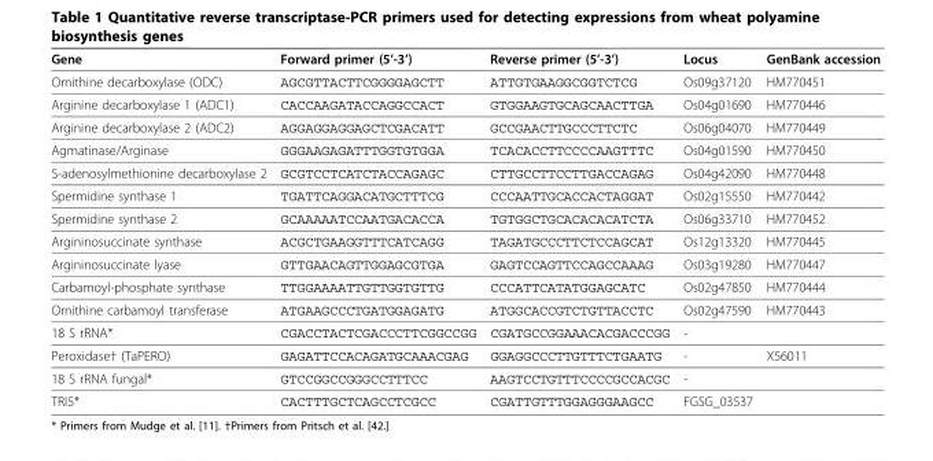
<table><thead><tr><td>Gene</td><td>Forward primer (5’-3’)</td><td>Reverse primer (5’-3’)</td><td>Locus</td><td>GenBank accession</td></tr></thead><tbody><tr><td>Ornithine decarboxylase (ODC)</td><td>AGCGTTACTTCGGGGAGCTT</td><td>ATTGTGAAGGCGGTCTCG</td><td>Os09g37120</td><td>HM770451</td></tr><tr><td>Arginine decarboxylase 1 (ADC1)</td><td>CACCAAGATACCAGGCCACT</td><td>GTGGAAGTGCAGCAACTTGA</td><td>Os04g01690</td><td>HM770446</td></tr><tr><td>Arginine decarboxylase 2 (ADC2)</td><td>AGGAGGAGGAGCTCGACATT</td><td>GCCGAACTTGCCCTTCTC</td><td>Os06g04070</td><td>HM770449</td></tr><tr><td>Agmatinase/Arginase</td><td>GGGAAGAGATTTGGTGTGGA</td><td>TCACACCTTCCCCAAGTTTC</td><td>Os04g01590</td><td>HM770450</td></tr><tr><td>S-adenosylmethionine decarboxylase 2</td><td>GCGTCCTCATCTACCAGAGC</td><td>CTTGCCTTCCTTGACCAGAG</td><td>Os04g42090</td><td>HM770448</td></tr><tr><td>Spermidine synthase 1</td><td>TGATTCAGGACATGCTTTCG</td><td>CCCAATTGCACCACTAGGAT</td><td>Os02g15550</td><td>HM770442</td></tr><tr><td>Spermidine synthase 2</td><td>GCAAAAATCCAATGACACCA</td><td>TGTGGCTGCACACACATCTA</td><td>Os06g33710</td><td>HM770452</td></tr><tr><td>Argininosuccinate synthase</td><td>ACGCTGAAGGTTTCATCAGG</td><td>TAGATGCCCTTCTCCAGCAT</td><td>Os12g13320</td><td>HM770445</td></tr><tr><td>Argininosuccinate lyase</td><td>GTTGAACAGTTGGAGCGTGA</td><td>GAGTCCAGTTCCAGCCAAAG</td><td>Os03g19280</td><td>HM770447</td></tr><tr><td>Carbamoyl-phosphate synthase</td><td>TTGGAAAATTGTTGGTGTTG</td><td>CCCATTCATATGGAGCATC</td><td>Os02g47850</td><td>HM770444</td></tr><tr><td>Ornithine carbamoyl transferase</td><td>ATGAAGCCCTGATGGAGATG</td><td>ATGGCACCGTCTGTTACCTC</td><td>Os02g47590</td><td>HM770443</td></tr><tr><td>18 S rRNA*</td><td>CGACCTACTCGACCCTTCGGCCGG</td><td>CGATGCCGGAAACACGACCCGG</td><td>-</td><td></td></tr><tr><td>Peroxidase† (TaPERO)</td><td>GAGATTCCACAGATGCAAACGAG</td><td>GGAGGCCCTTGTTTCTGAATG</td><td>-</td><td>X56011</td></tr><tr><td>18 S rRNA fungal*</td><td>GTCCGGCCGGGCCTTTCC</td><td>AAGTCCTGTTTCCCCGCCACGC</td><td>-</td><td></td></tr><tr><td>TRI5*</td><td>CACTTTGCTCAGCCTCGCC</td><td>CGATTGTTTGGAGGGAAGCC</td><td>FGSG_03537</td><td></td></tr></tbody></table>